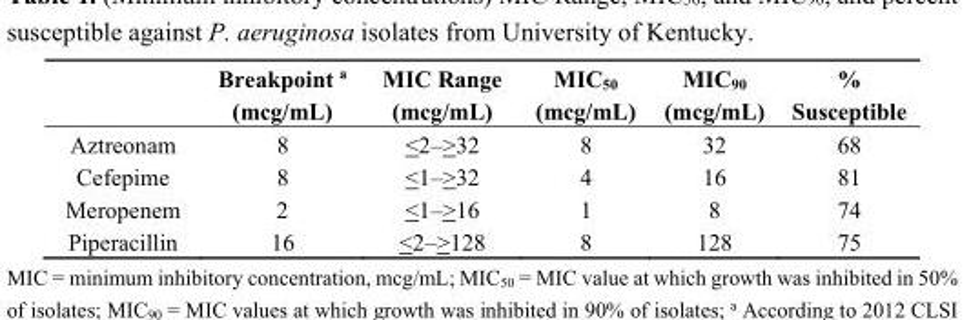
<table><thead><tr><td></td><td>Breakpoint <sup>a</sup> (mcg/mL)</td><td>MIC Range (mcg/mL)</td><td>MIC<sub>50</sub> (mcg/mL)</td><td>MIC<sub>90</sub> (mcg/mL)</td><td>% Susceptible</td></tr></thead><tbody><tr><td>Aztreonam</td><td>8</td><td>&lt;2–&gt;32</td><td>8</td><td>32</td><td>68</td></tr><tr><td>Cefepime</td><td>8</td><td>&lt;1–&gt;32</td><td>4</td><td>16</td><td>81</td></tr><tr><td>Meropenem</td><td>2</td><td>&lt;1–&gt;16</td><td>1</td><td>8</td><td>74</td></tr><tr><td>Piperacillin</td><td>16</td><td>&lt;2–&gt;128</td><td>8</td><td>128</td><td>75</td></tr></tbody></table>